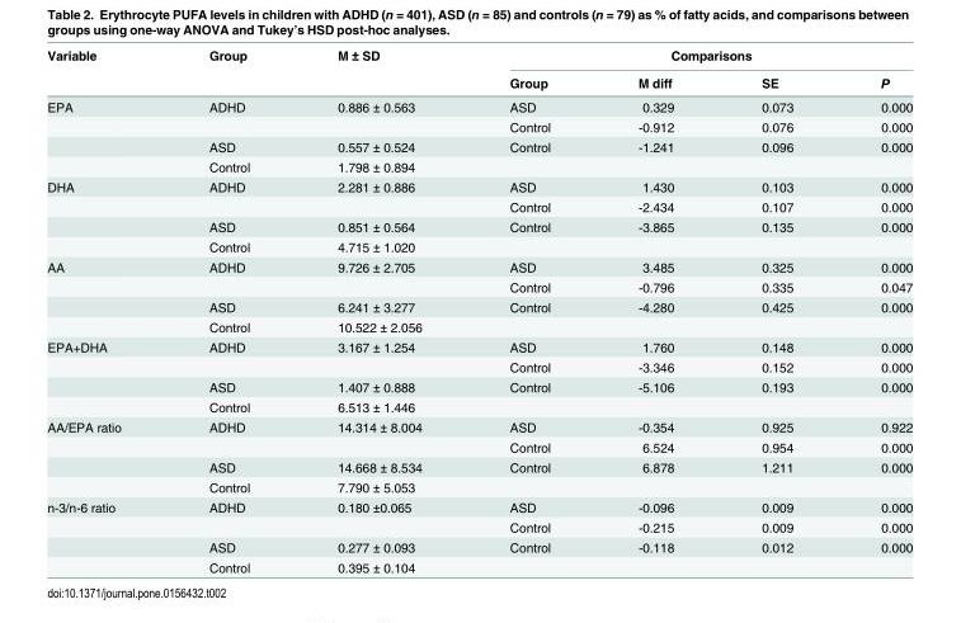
<table><thead><tr><td rowspan="2">Variable</td><td rowspan="2">Group</td><td rowspan="2">M ± SD</td><td colspan="4">Comparisons</td></tr><tr><td>Group</td><td>M diff</td><td>SE</td><td>P</td></tr></thead><tbody><tr><td rowspan="4">EPA</td><td>ADHD</td><td>0.886 ± 0.563</td><td>ASD</td><td>0.329</td><td>0.073</td><td>0.000</td></tr><tr><td></td><td></td><td>Control</td><td>-0.912</td><td>0.076</td><td>0.000</td></tr><tr><td>ASD</td><td>0.557 ± 0.524</td><td>Control</td><td>-1.241</td><td>0.096</td><td>0.000</td></tr><tr><td>Control</td><td>1.798 ± 0.894</td><td></td><td></td><td></td><td></td></tr><tr><td rowspan="4">DHA</td><td>ADHD</td><td>2.281 ± 0.886</td><td>ASD</td><td>1.430</td><td>0.103</td><td>0.000</td></tr><tr><td></td><td></td><td>Control</td><td>-2.434</td><td>0.107</td><td>0.000</td></tr><tr><td>ASD</td><td>0.851 ± 0.564</td><td>Control</td><td>-3.865</td><td>0.135</td><td>0.000</td></tr><tr><td>Control</td><td>4.715 ± 1.020</td><td></td><td></td><td></td><td></td></tr><tr><td rowspan="4">AA</td><td>ADHD</td><td>9.726 ± 2.705</td><td>ASD</td><td>3.485</td><td>0.325</td><td>0.000</td></tr><tr><td></td><td></td><td>Control</td><td>-0.796</td><td>0.335</td><td>0.047</td></tr><tr><td>ASD</td><td>6.241 ± 3.277</td><td>Control</td><td>-4.280</td><td>0.425</td><td>0.000</td></tr><tr><td>Control</td><td>10.522 ± 2.056</td><td></td><td></td><td></td><td></td></tr><tr><td rowspan="4">EPA+DHA</td><td>ADHD</td><td>3.167 ± 1.254</td><td>ASD</td><td>1.760</td><td>0.148</td><td>0.000</td></tr><tr><td></td><td></td><td>Control</td><td>-3.346</td><td>0.152</td><td>0.000</td></tr><tr><td>ASD</td><td>1.407 ± 0.888</td><td>Control</td><td>-5.106</td><td>0.193</td><td>0.000</td></tr><tr><td>Control</td><td>6.513 ± 1.446</td><td></td><td></td><td></td><td></td></tr><tr><td rowspan="4">AA/EPA ratio</td><td>ADHD</td><td>14.314 ± 8.004</td><td>ASD</td><td>-0.354</td><td>0.925</td><td>0.922</td></tr><tr><td></td><td></td><td>Control</td><td>6.524</td><td>0.954</td><td>0.000</td></tr><tr><td>ASD</td><td>14.668 ± 8.534</td><td>Control</td><td>6.878</td><td>1.211</td><td>0.000</td></tr><tr><td>Control</td><td>7.790 ± 5.053</td><td></td><td></td><td></td><td></td></tr><tr><td rowspan="4">n-3/n-6 ratio</td><td>ADHD</td><td>0.180 ±0.065</td><td>ASD</td><td>-0.096</td><td>0.009</td><td>0.000</td></tr><tr><td></td><td></td><td>Control</td><td>-0.215</td><td>0.009</td><td>0.000</td></tr><tr><td>ASD</td><td>0.277 ± 0.093</td><td>Control</td><td>-0.118</td><td>0.012</td><td>0.000</td></tr><tr><td>Control</td><td>0.395 ± 0.104</td><td></td><td></td><td></td><td></td></tr></tbody></table>